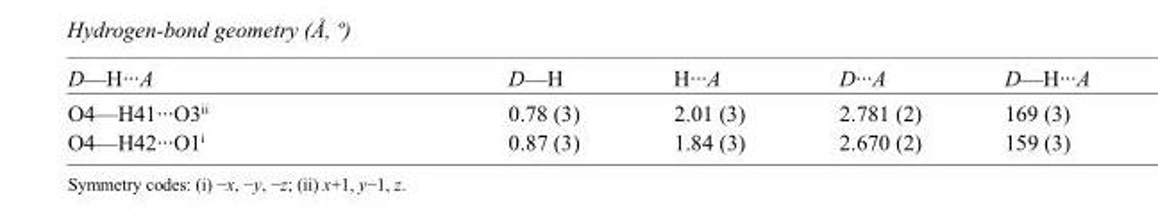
<table><tbody><tr><td>D—H···A</td><td>D—H</td><td>H···A</td><td>D···A</td><td>D—H···A</td></tr><tr><td>O4—H41···O3<sup>ii</sup></td><td>0.78 (3)</td><td>2.01 (3)</td><td>2.781 (2)</td><td>169 (3)</td></tr><tr><td>O4—H42···O1<sup>i</sup></td><td>0.87 (3)</td><td>1.84 (3)</td><td>2.670 (2)</td><td>159 (3)</td></tr></tbody></table>